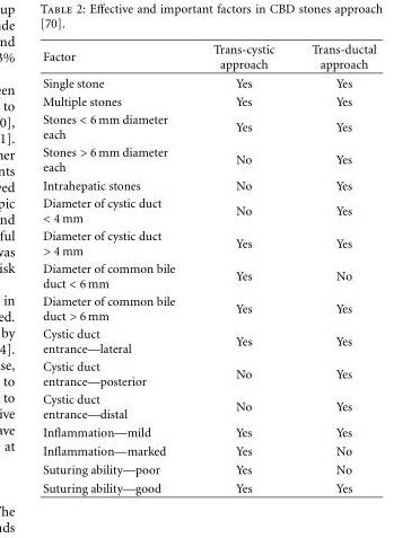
<table><thead><tr><td>Factor</td><td>Trans-cystic approach</td><td>Trans-ductal approach</td></tr></thead><tbody><tr><td>Single stone</td><td>Yes</td><td>Yes</td></tr><tr><td>Multiple stones</td><td>Yes</td><td>Yes</td></tr><tr><td>Stones &lt; 6 mm diameter each</td><td>Yes</td><td>Yes</td></tr><tr><td>Stones &gt; 6 mm diameter each</td><td>No</td><td>Yes</td></tr><tr><td>Intrahepatic stones</td><td>No</td><td>Yes</td></tr><tr><td>Diameter of cystic duct &lt; 4 mm</td><td>No</td><td>Yes</td></tr><tr><td>Diameter of cystic duct &gt; 4 mm</td><td>Yes</td><td>Yes</td></tr><tr><td>Diameter of common bile duct &lt; 6 mm</td><td>Yes</td><td>No</td></tr><tr><td>Diameter of common bile duct &gt; 6 mm</td><td>Yes</td><td>Yes</td></tr><tr><td>Cystic duct entrance—lateral</td><td>Yes</td><td>Yes</td></tr><tr><td>Cystic duct entrance—posterior</td><td>No</td><td>Yes</td></tr><tr><td>Cystic duct entrance—distal</td><td>No</td><td>Yes</td></tr><tr><td>Inflammation—mild</td><td>Yes</td><td>Yes</td></tr><tr><td>Inflammation—marked</td><td>Yes</td><td>No</td></tr><tr><td>Suturing ability—poor</td><td>Yes</td><td>No</td></tr><tr><td>Suturing ability—good</td><td>Yes</td><td>Yes</td></tr></tbody></table>